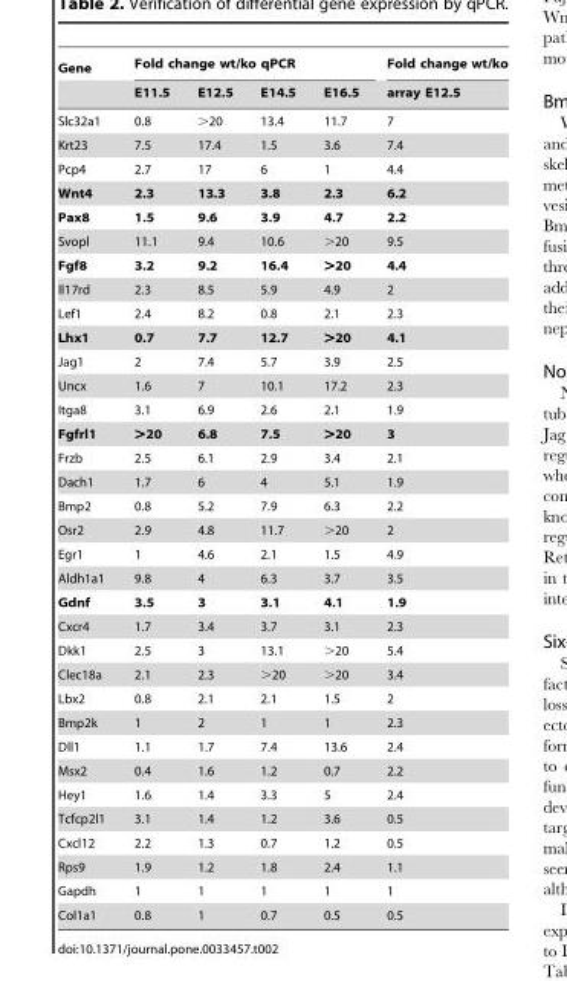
<table><thead><tr><td rowspan="2">Gene</td><td colspan="4">Fold change wt/ko qPCR</td><td rowspan="2">Fold change wt/ko array E12.5</td></tr><tr><td>E11.5</td><td>E12.5</td><td>E14.5</td><td>E16.5</td></tr></thead><tbody><tr><td>Slc32a1</td><td>0.8</td><td>&gt;20</td><td>13.4</td><td>11.7</td><td>7</td></tr><tr><td>Krt23</td><td>7.5</td><td>17.4</td><td>1.5</td><td>3.6</td><td>7.4</td></tr><tr><td>Pcp4</td><td>2.7</td><td>17</td><td>6</td><td>1</td><td>4.4</td></tr><tr><td>Wnt4</td><td>2.3</td><td>13.3</td><td>3.8</td><td>2.3</td><td>6.2</td></tr><tr><td>Pax8</td><td>1.5</td><td>9.6</td><td>3.9</td><td>4.7</td><td>2.2</td></tr><tr><td>Svopl</td><td>11.1</td><td>9.4</td><td>10.6</td><td>&gt;20</td><td>9.5</td></tr><tr><td>Fgf8</td><td>3.2</td><td>9.2</td><td>16.4</td><td>&gt;20</td><td>4.4</td></tr><tr><td>Il17rd</td><td>2.3</td><td>8.5</td><td>5.9</td><td>4.9</td><td>2</td></tr><tr><td>Lef1</td><td>2.4</td><td>8.2</td><td>0.8</td><td>2.1</td><td>2.3</td></tr><tr><td>Lhx1</td><td>0.7</td><td>7.7</td><td>12.7</td><td>&gt;20</td><td>4.1</td></tr><tr><td>Jag1</td><td>2</td><td>7.4</td><td>5.7</td><td>3.9</td><td>2.5</td></tr><tr><td>Uncx</td><td>1.6</td><td>7</td><td>10.1</td><td>17.2</td><td>2.3</td></tr><tr><td>Itga8</td><td>3.1</td><td>6.9</td><td>2.6</td><td>2.1</td><td>1.9</td></tr><tr><td>Fgfrl1</td><td>&gt;20</td><td>6.8</td><td>7.5</td><td>&gt;20</td><td>3</td></tr><tr><td>Frzb</td><td>2.5</td><td>6.1</td><td>2.9</td><td>3.4</td><td>2.1</td></tr><tr><td>Dach1</td><td>1.7</td><td>6</td><td>4</td><td>5.1</td><td>1.9</td></tr><tr><td>Bmp2</td><td>0.8</td><td>5.2</td><td>7.9</td><td>6.3</td><td>2.2</td></tr><tr><td>Osr2</td><td>2.9</td><td>4.8</td><td>11.7</td><td>&gt;20</td><td>2</td></tr><tr><td>Egr1</td><td>1</td><td>4.6</td><td>2.1</td><td>1.5</td><td>4.9</td></tr><tr><td>Aldh1a1</td><td>9.8</td><td>4</td><td>6.3</td><td>3.7</td><td>3.5</td></tr><tr><td>Gdnf</td><td>3.5</td><td>3</td><td>3.1</td><td>4.1</td><td>1.9</td></tr><tr><td>Cxcr4</td><td>1.7</td><td>3.4</td><td>3.7</td><td>3.1</td><td>2.3</td></tr><tr><td>Dkk1</td><td>2.5</td><td>3</td><td>13.1</td><td>&gt;20</td><td>5.4</td></tr><tr><td>Clec18a</td><td>2.1</td><td>2.3</td><td>&gt;20</td><td>&gt;20</td><td>3.4</td></tr><tr><td>Lbx2</td><td>0.8</td><td>2.1</td><td>2.1</td><td>1.5</td><td>2</td></tr><tr><td>Bmp2k</td><td>1</td><td>2</td><td>1</td><td>1</td><td>2.3</td></tr><tr><td>Dll1</td><td>1.1</td><td>1.7</td><td>7.4</td><td>13.6</td><td>2.4</td></tr><tr><td>Msx2</td><td>0.4</td><td>1.6</td><td>1.2</td><td>0.7</td><td>2.2</td></tr><tr><td>Hey1</td><td>1.6</td><td>1.4</td><td>3.3</td><td>5</td><td>2.4</td></tr><tr><td>Tcfcp2l1</td><td>3.1</td><td>1.4</td><td>1.2</td><td>3.6</td><td>0.5</td></tr><tr><td>Cxcl12</td><td>2.2</td><td>1.3</td><td>0.7</td><td>1.2</td><td>0.5</td></tr><tr><td>Rps9</td><td>1.9</td><td>1.2</td><td>1.8</td><td>2.4</td><td>1.1</td></tr><tr><td>Gapdh</td><td>1</td><td>1</td><td>1</td><td>1</td><td>1</td></tr><tr><td>Col1a1</td><td>0.8</td><td>1</td><td>0.7</td><td>0.5</td><td>0.5</td></tr></tbody></table>